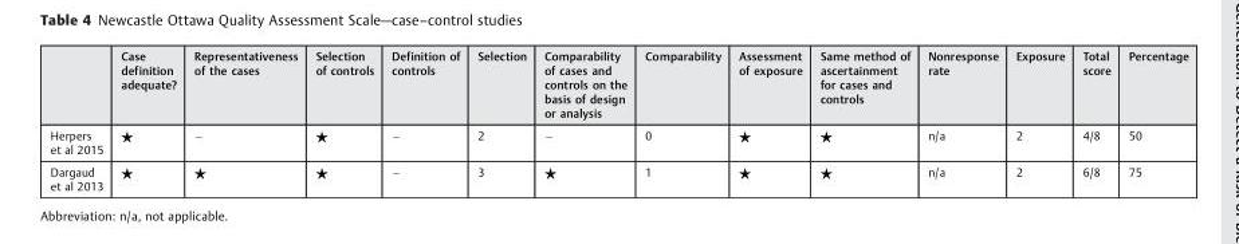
<table><thead><tr><td></td><td>Case definition adequate?</td><td>Representativeness of the cases</td><td>Selection of controls</td><td>Definition of controls</td><td>Selection</td><td>Comparability of cases and controls on the basis of design or analysis</td><td>Comparability</td><td>Assessment of exposure</td><td>Same method of ascertainment for cases and controls</td><td>Nonresponse rate</td><td>Exposure</td><td>Total score</td><td>Percentage</td></tr></thead><tbody><tr><td>Herpers et al 2015</td><td>★</td><td>−</td><td>★</td><td>−</td><td>2</td><td>−</td><td>0</td><td>★</td><td>★</td><td>n/a</td><td>2</td><td>4/8</td><td>50</td></tr><tr><td>Dargaud et al 2013</td><td>★</td><td>★</td><td>★</td><td>−</td><td>3</td><td>★</td><td>1</td><td>★</td><td>★</td><td>n/a</td><td>2</td><td>6/8</td><td>75</td></tr></tbody></table>